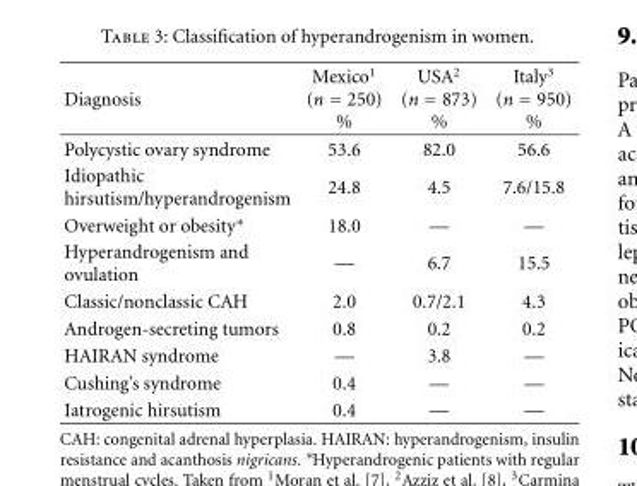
<table><thead><tr><td>Diagnosis</td><td>Mexico<sup>1</sup> (n = 250) %</td><td>USA<sup>2</sup> (n = 873) %</td><td>Italy<sup>3</sup> (n = 950) %</td></tr></thead><tbody><tr><td>Polycystic ovary syndrome</td><td>53.6</td><td>82.0</td><td>56.6</td></tr><tr><td>Idiopathic hirsutism/hyperandrogenism</td><td>24.8</td><td>4.5</td><td>7.6/15.8</td></tr><tr><td>Overweight or obesity∗</td><td>18.0</td><td>—</td><td>—</td></tr><tr><td>Hyperandrogenism and ovulation</td><td>—</td><td>6.7</td><td>15.5</td></tr><tr><td>Classic/nonclassic CAH</td><td>2.0</td><td>0.7/2.1</td><td>4.3</td></tr><tr><td>Androgen-secreting tumors</td><td>0.8</td><td>0.2</td><td>0.2</td></tr><tr><td>HAIRAN syndrome</td><td>—</td><td>3.8</td><td>—</td></tr><tr><td>Cushing’s syndrome</td><td>0.4</td><td>—</td><td>—</td></tr><tr><td>Iatrogenic hirsutism</td><td>0.4</td><td>—</td><td>—</td></tr></tbody></table>